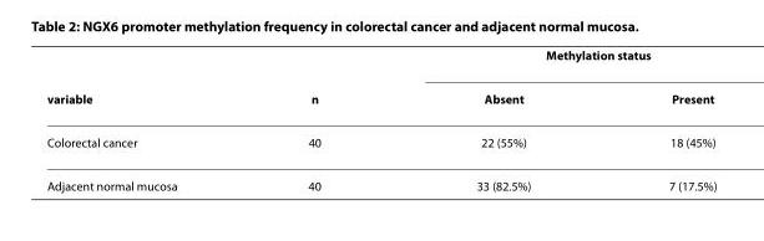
<table><thead><tr><td rowspan="2">variable</td><td rowspan="2">n</td><td colspan="2">Methylation status</td></tr><tr><td>Absent</td><td>Present</td></tr></thead><tbody><tr><td>Colorectal cancer</td><td>40</td><td>22 (55%)</td><td>18 (45%)</td></tr><tr><td>Adjacent normal mucosa</td><td>40</td><td>33 (82.5%)</td><td>7 (17.5%)</td></tr></tbody></table>